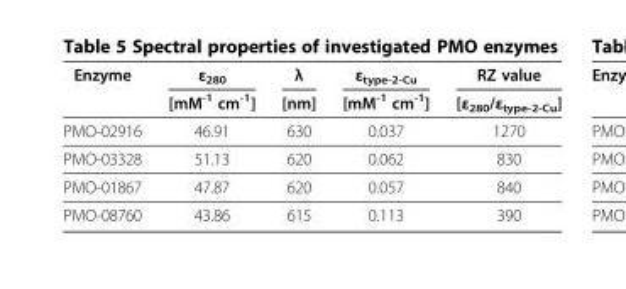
<table><thead><tr><td rowspan="2">Enzyme</td><td rowspan="2">ε<sub>280</sub> [mM<sup>-1</sup> cm<sup>-1</sup>]</td><td rowspan="2">λ [nm]</td><td rowspan="2">ε<sub>type-2-Cu</sub> [mM<sup>-1</sup> cm<sup>-1</sup>]</td><td rowspan="2">RZ value [ε<sub>280</sub>/ε<sub>type-2-Cu</sub>]</td></tr><tr></tr></thead><tbody><tr><td>PMO-02916</td><td>46.91</td><td>630</td><td>0.037</td><td>1270</td></tr><tr><td>PMO-03328</td><td>51.13</td><td>620</td><td>0.062</td><td>830</td></tr><tr><td>PMO-01867</td><td>47.87</td><td>620</td><td>0.057</td><td>840</td></tr><tr><td>PMO-08760</td><td>43.86</td><td>615</td><td>0.113</td><td>390</td></tr></tbody></table>